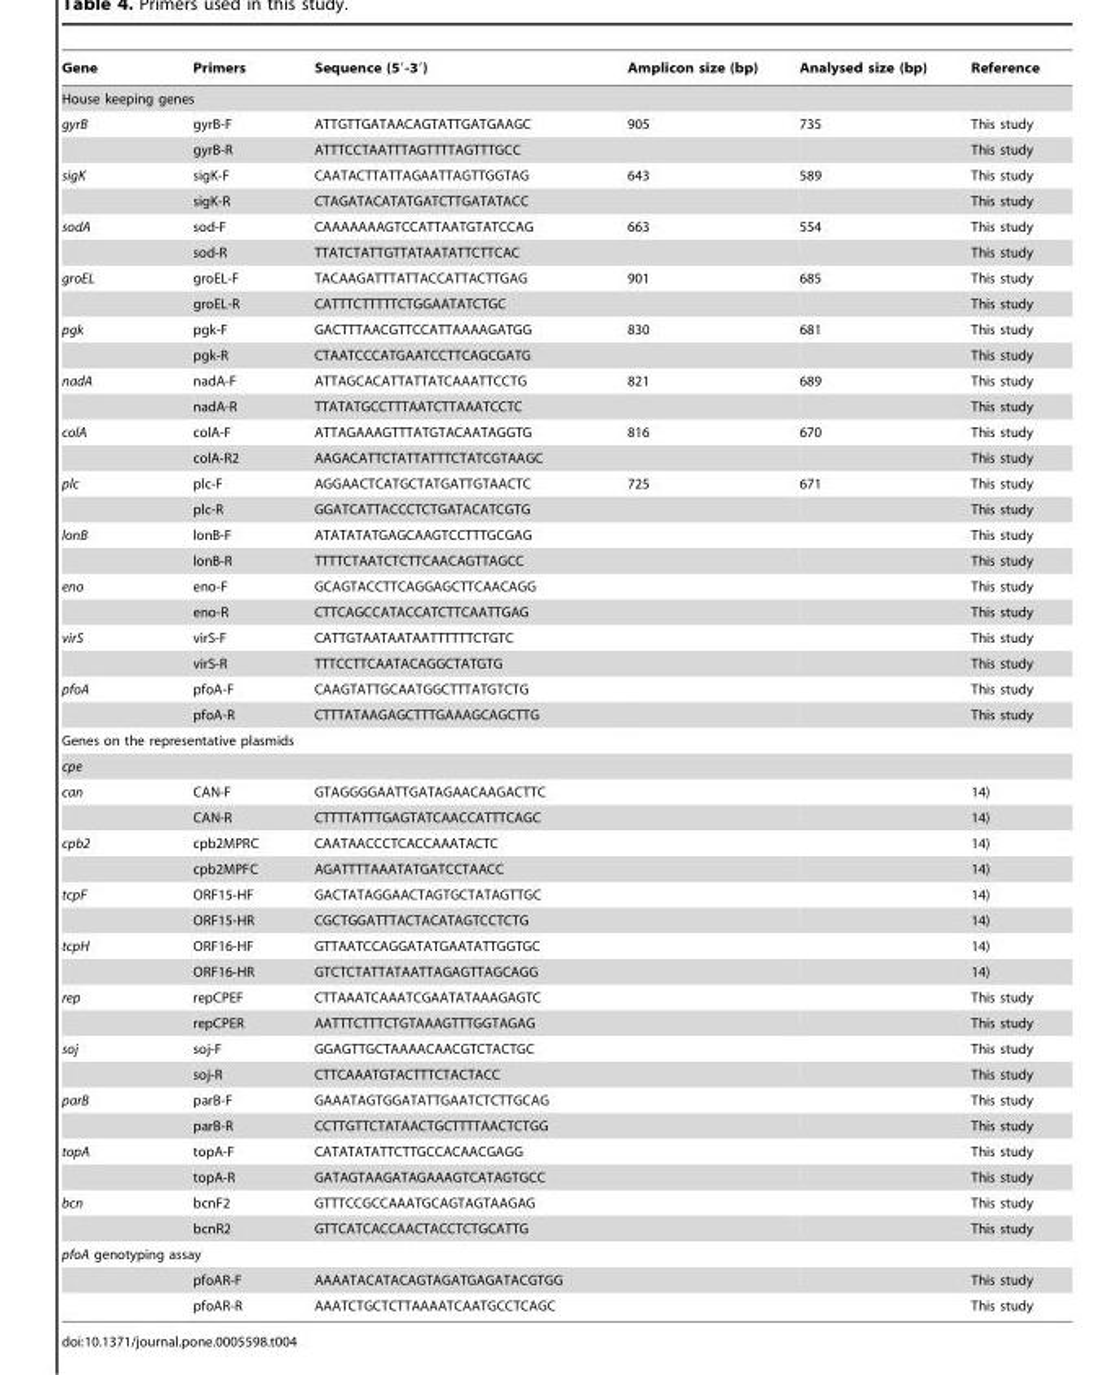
<table><thead><tr><td>Gene</td><td>Primers</td><td>Sequence (5′-3′)</td><td>Amplicon size (bp)</td><td>Analysed size (bp)</td><td>Reference</td></tr></thead><tbody><tr><td colspan="6">House keeping genes</td></tr><tr><td rowspan="2">gyrB</td><td>gyrB-F</td><td>ATTGTTGATAACAGTATTGATGAAGC</td><td>905</td><td>735</td><td>This study</td></tr><tr><td>gyrB-R</td><td>ATTTCCTAATTTAGTTTTAGTTTGCC</td><td></td><td></td><td>This study</td></tr><tr><td rowspan="2">sigK</td><td>sigK-F</td><td>CAATACTTATTAGAATTAGTTGGTAG</td><td>643</td><td>589</td><td>This study</td></tr><tr><td>sigK-R</td><td>CTAGATACATATGATCTTGATATACC</td><td></td><td></td><td>This study</td></tr><tr><td rowspan="2">sodA</td><td>sod-F</td><td>CAAAAAAAGTCCATTAATGTATCCAG</td><td>663</td><td>554</td><td>This study</td></tr><tr><td>sod-R</td><td>TTATCTATTGTTATAATATTCTTCAC</td><td></td><td></td><td>This study</td></tr><tr><td rowspan="2">groEL</td><td>groEL-F</td><td>TACAAGATTTATTACCATTACTTGAG</td><td>901</td><td>685</td><td>This study</td></tr><tr><td>groEL-R</td><td>CATTTCTTTTTCTGGAATATCTGC</td><td></td><td></td><td>This study</td></tr><tr><td rowspan="2">pgk</td><td>pgk-F</td><td>GACTTTAACGTTCCATTAAAAGATGG</td><td>830</td><td>681</td><td>This study</td></tr><tr><td>pgk-R</td><td>CTAATCCCATGAATCCTTCAGCGATG</td><td></td><td></td><td>This study</td></tr><tr><td rowspan="2">nadA</td><td>nadA-F</td><td>ATTAGCACATTATTATCAAATTCCTG</td><td>821</td><td>689</td><td>This study</td></tr><tr><td>nadA-R</td><td>TTATATGCCTTTAATCTTAAATCCTC</td><td></td><td></td><td>This study</td></tr><tr><td rowspan="2">colA</td><td>colA-F</td><td>ATTAGAAAGTTTATGTACAATAGGTG</td><td>816</td><td>670</td><td>This study</td></tr><tr><td>colA-R2</td><td>AAGACATTCTATTATTTCTATCGTAAGC</td><td></td><td></td><td>This study</td></tr><tr><td rowspan="2">plc</td><td>plc-F</td><td>AGGAACTCATGCTATGATTGTAACTC</td><td>725</td><td>671</td><td>This study</td></tr><tr><td>plc-R</td><td>GGATCATTACCCTCTGATACATCGTG</td><td></td><td></td><td>This study</td></tr><tr><td rowspan="2">lonB</td><td>lonB-F</td><td>ATATATATGAGCAAGTCCTTTGCGAG</td><td></td><td></td><td>This study</td></tr><tr><td>lonB-R</td><td>TTTTCTAATCTCTTCAACAGTTAGCC</td><td></td><td></td><td>This study</td></tr><tr><td rowspan="2">eno</td><td>eno-F</td><td>GCAGTACCTTCAGGAGCTTCAACAGG</td><td></td><td></td><td>This study</td></tr><tr><td>eno-R</td><td>CTTCAGCCATACCATCTTCAATTGAG</td><td></td><td></td><td>This study</td></tr><tr><td rowspan="2">virS</td><td>virS-F</td><td>CATTGTAATAATAATTTTTTCTGTC</td><td></td><td></td><td>This study</td></tr><tr><td>virS-R</td><td>TTTCCTTCAATACAGGCTATGTG</td><td></td><td></td><td>This study</td></tr><tr><td rowspan="2">pfoA</td><td>pfoA-F</td><td>CAAGTATTGCAATGGCTTTATGTCTG</td><td></td><td></td><td>This study</td></tr><tr><td>pfoA-R</td><td>CTTTATAAGAGCTTTGAAAGCAGCTTG</td><td></td><td></td><td>This study</td></tr><tr><td colspan="6">Genes on the representative plasmids</td></tr><tr><td colspan="6">cpe</td></tr><tr><td rowspan="2">can</td><td>CAN-F</td><td>GTAGGGGAATTGATAGAACAAGACTTC</td><td></td><td></td><td>14)</td></tr><tr><td>CAN-R</td><td>CTTTTATTTGAGTATCAACCATTTCAGC</td><td></td><td></td><td>14)</td></tr><tr><td rowspan="2">cpb2</td><td>cpb2MPRC</td><td>CAATAACCCTCACCAAATACTC</td><td></td><td></td><td>14)</td></tr><tr><td>cpb2MPFC</td><td>AGATTTTAAATATGATCCTAACC</td><td></td><td></td><td>14)</td></tr><tr><td rowspan="2">tcpF</td><td>ORF15-HF</td><td>GACTATAGGAACTAGTGCTATAGTTGC</td><td></td><td></td><td>14)</td></tr><tr><td>ORF15-HR</td><td>CGCTGGATTTACTACATAGTCCTCTG</td><td></td><td></td><td>14)</td></tr><tr><td rowspan="2">tcpH</td><td>ORF16-HF</td><td>GTTAATCCAGGATATGAATATTGGTGC</td><td></td><td></td><td>14)</td></tr><tr><td>ORF16-HR</td><td>GTCTCTATTATAATTAGAGTTAGCAGG</td><td></td><td></td><td>14)</td></tr><tr><td rowspan="2">rep</td><td>repCPEF</td><td>CTTAAATCAAATCGAATATAAAGAGTC</td><td></td><td></td><td>This study</td></tr><tr><td>repCPER</td><td>AATTTCTTTCTGTAAAGTTTGGTAGAG</td><td></td><td></td><td>This study</td></tr><tr><td rowspan="2">soj</td><td>soj-F</td><td>GGAGTTGCTAAAACAACGTCTACTGC</td><td></td><td></td><td>This study</td></tr><tr><td>soj-R</td><td>CTTCAAATGTACTTTCTACTACC</td><td></td><td></td><td>This study</td></tr><tr><td rowspan="2">parB</td><td>parB-F</td><td>GAAATAGTGGATATTGAATCTCTTGCAG</td><td></td><td></td><td>This study</td></tr><tr><td>parB-R</td><td>CCTTGTTCTATAACTGCTTTTAACTCTGG</td><td></td><td></td><td>This study</td></tr><tr><td rowspan="2">topA</td><td>topA-F</td><td>CATATATATTCTTGCCACAACGAGG</td><td></td><td></td><td>This study</td></tr><tr><td>topA-R</td><td>GATAGTAAGATAGAAAGTCATAGTGCC</td><td></td><td></td><td>This study</td></tr><tr><td rowspan="2">bcn</td><td>bcnF2</td><td>GTTTCCGCCAAATGCAGTAGTAAGAG</td><td></td><td></td><td>This study</td></tr><tr><td>bcnR2</td><td>GTTCATCACCAACTACCTCTGCATTG</td><td></td><td></td><td>This study</td></tr><tr><td colspan="6">pfoA genotyping assay</td></tr><tr><td></td><td>pfoAR-F</td><td>AAAATACATACAGTAGATGAGATACGTGG</td><td></td><td></td><td>This study</td></tr><tr><td></td><td>pfoAR-R</td><td>AAATCTGCTCTTAAAATCAATGCCTCAGC</td><td></td><td></td><td>This study</td></tr></tbody></table>